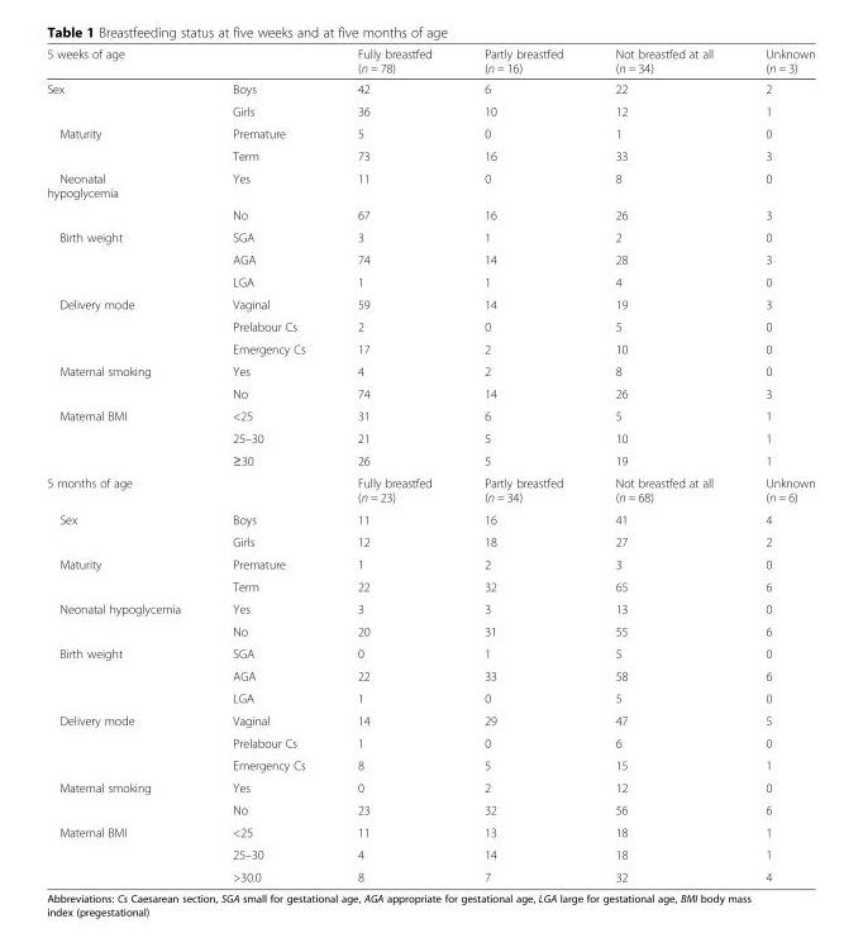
<table><thead><tr><td>5 weeks of age</td><td></td><td>Fully breastfed (n = 78)</td><td>Partly breastfed (n = 16)</td><td>Not breastfed at all (n = 34)</td><td>Unknown (n = 3)</td></tr></thead><tbody><tr><td rowspan="2">Sex</td><td>Boys</td><td>42</td><td>6</td><td>22</td><td>2</td></tr><tr><td>Girls</td><td>36</td><td>10</td><td>12</td><td>1</td></tr><tr><td rowspan="2">Maturity</td><td>Premature</td><td>5</td><td>0</td><td>1</td><td>0</td></tr><tr><td>Term</td><td>73</td><td>16</td><td>33</td><td>3</td></tr><tr><td rowspan="2">Neonatal hypoglycemia</td><td>Yes</td><td>11</td><td>0</td><td>8</td><td>0</td></tr><tr><td>No</td><td>67</td><td>16</td><td>26</td><td>3</td></tr><tr><td rowspan="3">Birth weight</td><td>SGA</td><td>3</td><td>1</td><td>2</td><td>0</td></tr><tr><td>AGA</td><td>74</td><td>14</td><td>28</td><td>3</td></tr><tr><td>LGA</td><td>1</td><td>1</td><td>4</td><td>0</td></tr><tr><td rowspan="3">Delivery mode</td><td>Vaginal</td><td>59</td><td>14</td><td>19</td><td>3</td></tr><tr><td>Prelabour Cs</td><td>2</td><td>0</td><td>5</td><td>0</td></tr><tr><td>Emergency Cs</td><td>17</td><td>2</td><td>10</td><td>0</td></tr><tr><td rowspan="2">Maternal smoking</td><td>Yes</td><td>4</td><td>2</td><td>8</td><td>0</td></tr><tr><td>No</td><td>74</td><td>14</td><td>26</td><td>3</td></tr><tr><td rowspan="3">Maternal BMI</td><td>&lt;25</td><td>31</td><td>6</td><td>5</td><td>1</td></tr><tr><td>25–30</td><td>21</td><td>5</td><td>10</td><td>1</td></tr><tr><td>≥30</td><td>26</td><td>5</td><td>19</td><td>1</td></tr><tr><td>5 months of age</td><td></td><td>Fully breastfed (n = 23)</td><td>Partly breastfed (n = 34)</td><td>Not breastfed at all (n = 68)</td><td>Unknown (n = 6)</td></tr><tr><td rowspan="2">Sex</td><td>Boys</td><td>11</td><td>16</td><td>41</td><td>4</td></tr><tr><td>Girls</td><td>12</td><td>18</td><td>27</td><td>2</td></tr><tr><td rowspan="2">Maturity</td><td>Premature</td><td>1</td><td>2</td><td>3</td><td>0</td></tr><tr><td>Term</td><td>22</td><td>32</td><td>65</td><td>6</td></tr><tr><td rowspan="2">Neonatal hypoglycemia</td><td>Yes</td><td>3</td><td>3</td><td>13</td><td>0</td></tr><tr><td>No</td><td>20</td><td>31</td><td>55</td><td>6</td></tr><tr><td rowspan="3">Birth weight</td><td>SGA</td><td>0</td><td>1</td><td>5</td><td>0</td></tr><tr><td>AGA</td><td>22</td><td>33</td><td>58</td><td>6</td></tr><tr><td>LGA</td><td>1</td><td>0</td><td>5</td><td>0</td></tr><tr><td rowspan="3">Delivery mode</td><td>Vaginal</td><td>14</td><td>29</td><td>47</td><td>5</td></tr><tr><td>Prelabour Cs</td><td>1</td><td>0</td><td>6</td><td>0</td></tr><tr><td>Emergency Cs</td><td>8</td><td>5</td><td>15</td><td>1</td></tr><tr><td rowspan="2">Maternal smoking</td><td>Yes</td><td>0</td><td>2</td><td>12</td><td>0</td></tr><tr><td>No</td><td>23</td><td>32</td><td>56</td><td>6</td></tr><tr><td rowspan="3">Maternal BMI</td><td>&lt;25</td><td>11</td><td>13</td><td>18</td><td>1</td></tr><tr><td>25–30</td><td>4</td><td>14</td><td>18</td><td>1</td></tr><tr><td>&gt;30.0</td><td>8</td><td>7</td><td>32</td><td>4</td></tr></tbody></table>